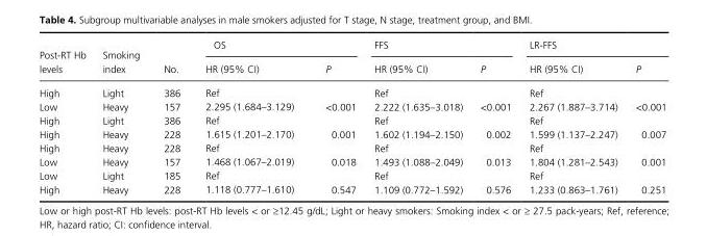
<table><thead><tr><td rowspan="2">Post- RT Hb levels</td><td rowspan="2">Smoking index</td><td rowspan="2">No.</td><td rowspan="2">OS HR (95% CI)</td><td rowspan="2">P</td><td rowspan="2">FFS HR (95% CI)</td><td rowspan="2">P</td><td rowspan="2">LR- FFS HR (95% CI)</td><td rowspan="2">P</td></tr><tr></tr></thead><tbody><tr><td>High</td><td>Light</td><td>386</td><td>Ref</td><td></td><td>Ref</td><td></td><td>Ref</td><td></td></tr><tr><td>Low</td><td>Heavy</td><td>157</td><td>2.295 (1.684–3.129)</td><td>&lt;0.001</td><td>2.222 (1.635–3.018)</td><td>&lt;0.001</td><td>2.267 (1.887–3.714)</td><td>&lt;0.001</td></tr><tr><td>High</td><td>Light</td><td>386</td><td>Ref</td><td></td><td>Ref</td><td></td><td>Ref</td><td></td></tr><tr><td>High</td><td>Heavy</td><td>228</td><td>1.615 (1.201–2.170)</td><td>0.001</td><td>1.602 (1.194–2.150)</td><td>0.002</td><td>1.599 (1.137–2.247)</td><td>0.007</td></tr><tr><td>High</td><td>Heavy</td><td>228</td><td>Ref</td><td></td><td>Ref</td><td></td><td>Ref</td><td></td></tr><tr><td>Low</td><td>Heavy</td><td>157</td><td>1.468 (1.067–2.019)</td><td>0.018</td><td>1.493 (1.088–2.049)</td><td>0.013</td><td>1.804 (1.281–2.543)</td><td>0.001</td></tr><tr><td>Low</td><td>Light</td><td>185</td><td>Ref</td><td></td><td>Ref</td><td></td><td>Ref</td><td></td></tr><tr><td>High</td><td>Heavy</td><td>228</td><td>1.118 (0.777–1.610)</td><td>0.547</td><td>1.109 (0.772–1.592)</td><td>0.576</td><td>1.233 (0.863–1.761)</td><td>0.251</td></tr></tbody></table>